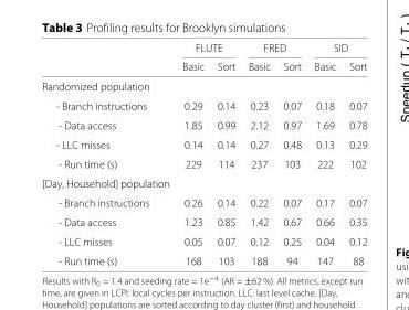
<table><thead><tr><td rowspan="2"></td><td colspan="2">FLUTE</td><td colspan="2">FRED</td><td colspan="2">SID</td></tr><tr><td>Basic</td><td>Sort</td><td>Basic</td><td>Sort</td><td>Basic</td><td>Sort</td></tr></thead><tbody><tr><td colspan="7">Randomized population</td></tr><tr><td>- Branch instructions</td><td>0.29</td><td>0.14</td><td>0.23</td><td>0.07</td><td>0.18</td><td>0.07</td></tr><tr><td>- Data access</td><td>1.85</td><td>0.99</td><td>2.12</td><td>0.97</td><td>1.69</td><td>0.78</td></tr><tr><td>- LLC misses</td><td>0.14</td><td>0.14</td><td>0.27</td><td>0.48</td><td>0.13</td><td>0.29</td></tr><tr><td>- Run time (s)</td><td>229</td><td>114</td><td>237</td><td>103</td><td>222</td><td>102</td></tr><tr><td colspan="7">[Day, Household] population</td></tr><tr><td>- Branch instructions</td><td>0.26</td><td>0.14</td><td>0.22</td><td>0.07</td><td>0.17</td><td>0.07</td></tr><tr><td>- Data access</td><td>1.23</td><td>0.85</td><td>1.42</td><td>0.67</td><td>0.66</td><td>0.35</td></tr><tr><td>- LLC misses</td><td>0.05</td><td>0.07</td><td>0.12</td><td>0.25</td><td>0.04</td><td>0.12</td></tr><tr><td>- Run time (s)</td><td>168</td><td>103</td><td>188</td><td>94</td><td>147</td><td>88</td></tr></tbody></table>